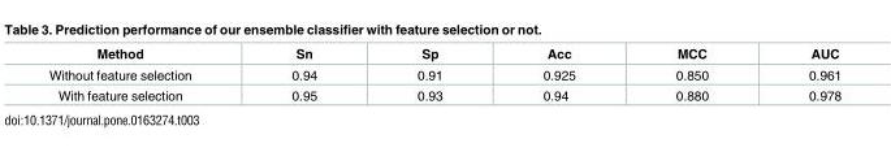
<table><thead><tr><td>Method</td><td>Sn</td><td>Sp</td><td>Acc</td><td>MCC</td><td>AUC</td></tr></thead><tbody><tr><td>Without feature selection</td><td>0.94</td><td>0.91</td><td>0.925</td><td>0.850</td><td>0.961</td></tr><tr><td>With feature selection</td><td>0.95</td><td>0.93</td><td>0.94</td><td>0.880</td><td>0.978</td></tr></tbody></table>